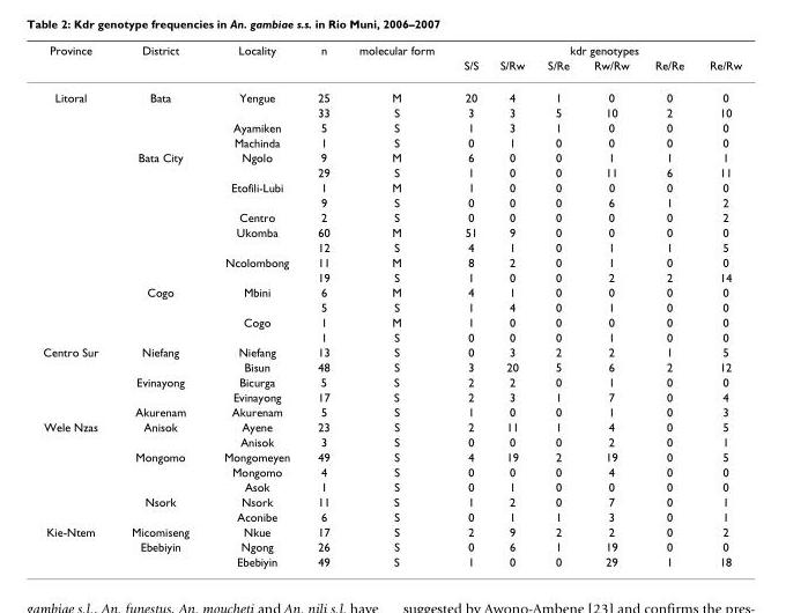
<table><thead><tr><td rowspan="2">Province</td><td rowspan="2">District</td><td rowspan="2">Locality</td><td rowspan="2">n</td><td rowspan="2">molecular form</td><td colspan="6">kdr genotypes</td></tr><tr><td>S/S</td><td>S/Rw</td><td>S/Re</td><td>Rw/Rw</td><td>Re/Re</td><td>Re/Rw</td></tr></thead><tbody><tr><td rowspan="17">Litoral</td><td>Bata</td><td>Yengue</td><td>25</td><td>M</td><td>20</td><td>4</td><td>1</td><td>0</td><td>0</td><td>0</td></tr><tr><td></td><td></td><td>33</td><td>S</td><td>3</td><td>3</td><td>5</td><td>10</td><td>2</td><td>10</td></tr><tr><td></td><td>Ayamiken</td><td>5</td><td>S</td><td>1</td><td>3</td><td>1</td><td>0</td><td>0</td><td>0</td></tr><tr><td></td><td>Machinda</td><td>1</td><td>S</td><td>0</td><td>1</td><td>0</td><td>0</td><td>0</td><td>0</td></tr><tr><td>Bata City</td><td>Ngolo</td><td>9</td><td>M</td><td>6</td><td>0</td><td>0</td><td>1</td><td>1</td><td>1</td></tr><tr><td></td><td></td><td>29</td><td>S</td><td>1</td><td>0</td><td>0</td><td>11</td><td>6</td><td>11</td></tr><tr><td></td><td>Etofili-Lubi</td><td>1</td><td>M</td><td>1</td><td>0</td><td>0</td><td>0</td><td>0</td><td>0</td></tr><tr><td></td><td></td><td>9</td><td>S</td><td>0</td><td>0</td><td>0</td><td>6</td><td>1</td><td>2</td></tr><tr><td></td><td>Centro</td><td>2</td><td>S</td><td>0</td><td>0</td><td>0</td><td>0</td><td>0</td><td>2</td></tr><tr><td></td><td>Ukomba</td><td>60</td><td>M</td><td>51</td><td>9</td><td>0</td><td>0</td><td>0</td><td>0</td></tr><tr><td></td><td></td><td>12</td><td>S</td><td>4</td><td>1</td><td>0</td><td>1</td><td>1</td><td>5</td></tr><tr><td></td><td>Ncolombong</td><td>11</td><td>M</td><td>8</td><td>2</td><td>0</td><td>1</td><td>0</td><td>0</td></tr><tr><td></td><td></td><td>19</td><td>S</td><td>1</td><td>0</td><td>0</td><td>2</td><td>2</td><td>14</td></tr><tr><td>Cogo</td><td>Mbini</td><td>6</td><td>M</td><td>4</td><td>1</td><td>0</td><td>0</td><td>0</td><td>0</td></tr><tr><td></td><td></td><td>5</td><td>S</td><td>1</td><td>4</td><td>0</td><td>1</td><td>0</td><td>0</td></tr><tr><td></td><td>Cogo</td><td>1</td><td>M</td><td>1</td><td>0</td><td>0</td><td>0</td><td>0</td><td>0</td></tr><tr><td></td><td></td><td>1</td><td>S</td><td>0</td><td>0</td><td>0</td><td>1</td><td>0</td><td>0</td></tr><tr><td rowspan="5">Centro Sur</td><td>Niefang</td><td>Niefang</td><td>13</td><td>S</td><td>0</td><td>3</td><td>2</td><td>2</td><td>1</td><td>5</td></tr><tr><td></td><td>Bisun</td><td>48</td><td>S</td><td>3</td><td>20</td><td>5</td><td>6</td><td>2</td><td>12</td></tr><tr><td>Evinayong</td><td>Bicurga</td><td>5</td><td>S</td><td>2</td><td>2</td><td>0</td><td>1</td><td>0</td><td>0</td></tr><tr><td></td><td>Evinayong</td><td>17</td><td>S</td><td>2</td><td>3</td><td>1</td><td>7</td><td>0</td><td>4</td></tr><tr><td>Akurenam</td><td>Akurenam</td><td>5</td><td>S</td><td>1</td><td>0</td><td>0</td><td>1</td><td>0</td><td>3</td></tr><tr><td rowspan="7">Wele Nzas</td><td>Anisok</td><td>Ayene</td><td>23</td><td>S</td><td>2</td><td>11</td><td>1</td><td>4</td><td>0</td><td>5</td></tr><tr><td></td><td>Anisok</td><td>3</td><td>S</td><td>0</td><td>0</td><td>0</td><td>2</td><td>0</td><td>1</td></tr><tr><td>Mongomo</td><td>Mongomeyen</td><td>49</td><td>S</td><td>4</td><td>19</td><td>2</td><td>19</td><td>0</td><td>5</td></tr><tr><td></td><td>Mongomo</td><td>4</td><td>S</td><td>0</td><td>0</td><td>0</td><td>4</td><td>0</td><td>0</td></tr><tr><td></td><td>Asok</td><td>1</td><td>S</td><td>0</td><td>1</td><td>0</td><td>0</td><td>0</td><td>0</td></tr><tr><td>Nsork</td><td>Nsork</td><td>11</td><td>S</td><td>1</td><td>2</td><td>0</td><td>7</td><td>0</td><td>1</td></tr><tr><td></td><td>Aconibe</td><td>6</td><td>S</td><td>0</td><td>1</td><td>1</td><td>3</td><td>0</td><td>1</td></tr><tr><td rowspan="3">Kie-Ntem</td><td>Micomiseng</td><td>Nkue</td><td>17</td><td>S</td><td>2</td><td>9</td><td>2</td><td>2</td><td>0</td><td>2</td></tr><tr><td>Ebebiyin</td><td>Ngong</td><td>26</td><td>S</td><td>0</td><td>6</td><td>1</td><td>19</td><td>0</td><td>0</td></tr><tr><td></td><td>Ebebiyin</td><td>49</td><td>S</td><td>1</td><td>0</td><td>0</td><td>29</td><td>1</td><td>18</td></tr></tbody></table>